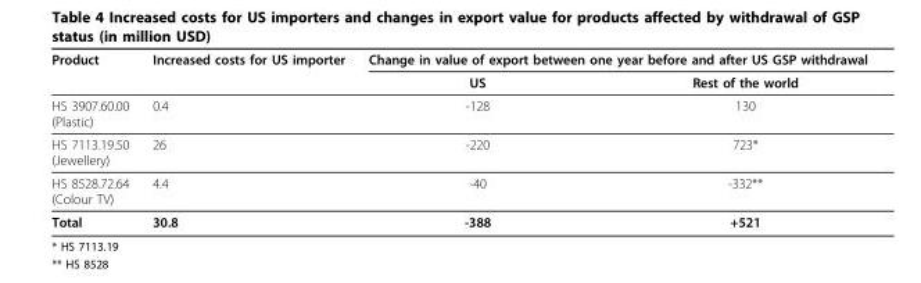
<table><thead><tr><td rowspan="2">Product</td><td rowspan="2">Increased costs for US importer</td><td colspan="2">Change in value of export between one year before and after US GSP withdrawal</td></tr><tr><td>US</td><td>Rest of the world</td></tr></thead><tbody><tr><td>HS 3907.60.00 (Plastic)</td><td>0.4</td><td>-128</td><td>130</td></tr><tr><td>HS 7113.19.50 (Jewellery)</td><td>26</td><td>-220</td><td>723*</td></tr><tr><td>HS 8528.72.64 (Colour TV)</td><td>4.4</td><td>-40</td><td>-332**</td></tr><tr><td>Total</td><td>30.8</td><td>-388</td><td>+521</td></tr></tbody></table>